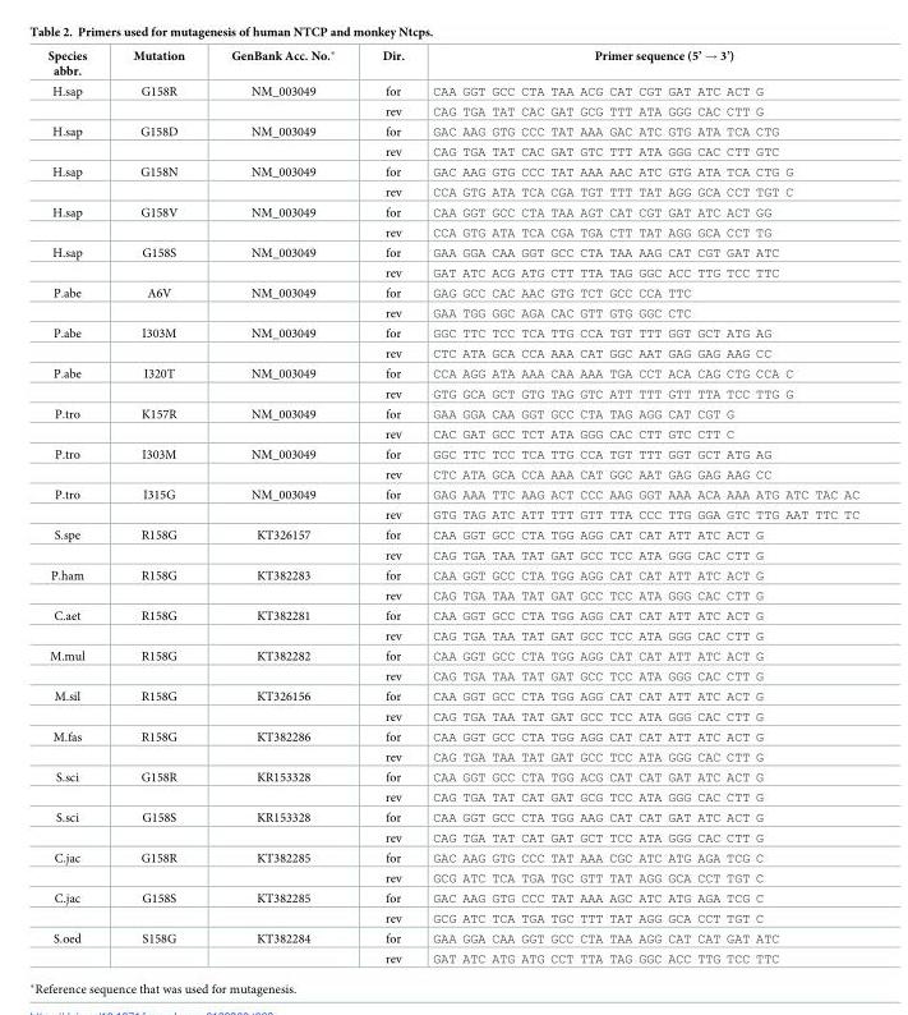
<table><thead><tr><td>Species abbr.</td><td>Mutation</td><td>GenBank Acc. No.*</td><td>Dir.</td><td>Primer sequence (5’ → 3’)</td></tr></thead><tbody><tr><td rowspan="2">H.sap</td><td>G158R</td><td>NM_003049</td><td>for</td><td>CAA GGT GCC CTA TAA ACG CAT CGT GAT ATC ACT G</td></tr><tr><td></td><td></td><td>rev</td><td>CAG TGA TAT CAC GAT GCG TTT ATA GGG CAC CTT G</td></tr><tr><td rowspan="2">H.sap</td><td>G158D</td><td>NM_003049</td><td>for</td><td>GAC AAG GTG CCC TAT AAA GAC ATC GTG ATA TCA CTG</td></tr><tr><td></td><td></td><td>rev</td><td>CAG TGA TAT CAC GAT GTC TTT ATA GGG CAC CTT GTC</td></tr><tr><td rowspan="2">H.sap</td><td>G158N</td><td>NM_003049</td><td>for</td><td>GAC AAG GTG CCC TAT AAA AAC ATC GTG ATA TCA CTG G</td></tr><tr><td></td><td></td><td>rev</td><td>CCA GTG ATA TCA CGA TGT TTT TAT AGG GCA CCT TGT C</td></tr><tr><td rowspan="2">H.sap</td><td>G158V</td><td>NM_003049</td><td>for</td><td>CAA GGT GCC CTA TAA AGT CAT CGT GAT ATC ACT GG</td></tr><tr><td></td><td></td><td>rev</td><td>CCA GTG ATA TCA CGA TGA CTT TAT AGG GCA CCT TG</td></tr><tr><td rowspan="2">H.sap</td><td>G158S</td><td>NM_003049</td><td>for</td><td>GAA GGA CAA GGT GCC CTA TAA AAG CAT CGT GAT ATC</td></tr><tr><td></td><td></td><td>rev</td><td>GAT ATC ACG ATG CTT TTA TAG GGC ACC TTG TCC TTC</td></tr><tr><td rowspan="2">P.abe</td><td>A6V</td><td>NM_003049</td><td>for</td><td>GAG GCC CAC AAC GTG TCT GCC CCA TTC</td></tr><tr><td></td><td></td><td>rev</td><td>GAA TGG GGC AGA CAC GTT GTG GGC CTC</td></tr><tr><td rowspan="2">P.abe</td><td>I303M</td><td>NM_003049</td><td>for</td><td>GGC TTC TCC TCA TTG CCA TGT TTT GGT GCT ATG AG</td></tr><tr><td></td><td></td><td>rev</td><td>CTC ATA GCA CCA AAA CAT GGC AAT GAG GAG AAG CC</td></tr><tr><td rowspan="2">P.abe</td><td>I320T</td><td>NM_003049</td><td>for</td><td>CCA AGG ATA AAA CAA AAA TGA CCT ACA CAG CTG CCA C</td></tr><tr><td></td><td></td><td>rev</td><td>GTG GCA GCT GTG TAG GTC ATT TTT GTT TTA TCC TTG G</td></tr><tr><td rowspan="2">P.tro</td><td>K157R</td><td>NM_003049</td><td>for</td><td>GAA GGA CAA GGT GCC CTA TAG AGG CAT CGT G</td></tr><tr><td></td><td></td><td>rev</td><td>CAC GAT GCC TCT ATA GGG CAC CTT GTC CTT C</td></tr><tr><td rowspan="2">P.tro</td><td>I303M</td><td>NM_003049</td><td>for</td><td>GGC TTC TCC TCA TTG CCA TGT TTT GGT GCT ATG AG</td></tr><tr><td></td><td></td><td>rev</td><td>CTC ATA GCA CCA AAA CAT GGC AAT GAG GAG AAG CC</td></tr><tr><td rowspan="2">P.tro</td><td>I315G</td><td>NM_003049</td><td>for</td><td>GAG AAA TTC AAG ACT CCC AAG GGT AAA ACA AAA ATG ATC TAC AC</td></tr><tr><td></td><td></td><td>rev</td><td>GTG TAG ATC ATT TTT GTT TTA CCC TTG GGA GTC TTG AAT TTC TC</td></tr><tr><td rowspan="2">S.spe</td><td>R158G</td><td>KT326157</td><td>for</td><td>CAA GGT GCC CTA TGG AGG CAT CAT ATT ATC ACT G</td></tr><tr><td></td><td></td><td>rev</td><td>CAG TGA TAA TAT GAT GCC TCC ATA GGG CAC CTT G</td></tr><tr><td rowspan="2">P.ham</td><td>R158G</td><td>KT382283</td><td>for</td><td>CAA GGT GCC CTA TGG AGG CAT CAT ATT ATC ACT G</td></tr><tr><td></td><td></td><td>rev</td><td>CAG TGA TAA TAT GAT GCC TCC ATA GGG CAC CTT G</td></tr><tr><td rowspan="2">C.aet</td><td>R158G</td><td>KT382281</td><td>for</td><td>CAA GGT GCC CTA TGG AGG CAT CAT ATT ATC ACT G</td></tr><tr><td></td><td></td><td>rev</td><td>CAG TGA TAA TAT GAT GCC TCC ATA GGG CAC CTT G</td></tr><tr><td rowspan="2">M.mul</td><td>R158G</td><td>KT382282</td><td>for</td><td>CAA GGT GCC CTA TGG AGG CAT CAT ATT ATC ACT G</td></tr><tr><td></td><td></td><td>rev</td><td>CAG TGA TAA TAT GAT GCC TCC ATA GGG CAC CTT G</td></tr><tr><td rowspan="2">M.sil</td><td>R158G</td><td>KT326156</td><td>for</td><td>CAA GGT GCC CTA TGG AGG CAT CAT ATT ATC ACT G</td></tr><tr><td></td><td></td><td>rev</td><td>CAG TGA TAA TAT GAT GCC TCC ATA GGG CAC CTT G</td></tr><tr><td rowspan="2">M.fas</td><td>R158G</td><td>KT382286</td><td>for</td><td>CAA GGT GCC CTA TGG AGG CAT CAT ATT ATC ACT G</td></tr><tr><td></td><td></td><td>rev</td><td>CAG TGA TAA TAT GAT GCC TCC ATA GGG CAC CTT G</td></tr><tr><td rowspan="2">S.sci</td><td>G158R</td><td>KR153328</td><td>for</td><td>CAA GGT GCC CTA TGG ACG CAT CAT GAT ATC ACT G</td></tr><tr><td></td><td></td><td>rev</td><td>CAG TGA TAT CAT GAT GCG TCC ATA GGG CAC CTT G</td></tr><tr><td rowspan="2">S.sci</td><td>G158S</td><td>KR153328</td><td>for</td><td>CAA GGT GCC CTA TGG AAG CAT CAT GAT ATC ACT G</td></tr><tr><td></td><td></td><td>rev</td><td>CAG TGA TAT CAT GAT GCT TCC ATA GGG CAC CTT G</td></tr><tr><td rowspan="2">C.jac</td><td>G158R</td><td>KT382285</td><td>for</td><td>GAC AAG GTG CCC TAT AAA CGC ATC ATG AGA TCG C</td></tr><tr><td></td><td></td><td>rev</td><td>GCG ATC TCA TGA TGC GTT TAT AGG GCA CCT TGT C</td></tr><tr><td rowspan="2">C.jac</td><td>G158S</td><td>KT382285</td><td>for</td><td>GAC AAG GTG CCC TAT AAA AGC ATC ATG AGA TCG C</td></tr><tr><td></td><td></td><td>rev</td><td>GCG ATC TCA TGA TGC TTT TAT AGG GCA CCT TGT C</td></tr><tr><td rowspan="2">S.oed</td><td>S158G</td><td>KT382284</td><td>for</td><td>GAA GGA CAA GGT GCC CTA TAA AGG CAT CAT GAT ATC</td></tr><tr><td></td><td></td><td>rev</td><td>GAT ATC ATG ATG CCT TTA TAG GGC ACC TTG TCC TTC</td></tr></tbody></table>